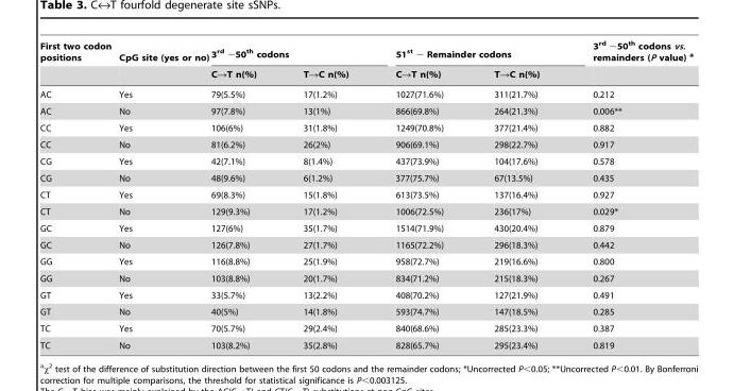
<table><thead><tr><td rowspan="2">First two codon positions</td><td rowspan="2">CpG site (yes or no)</td><td colspan="2">3<sup>rd</sup> ∼50<sup>th</sup> codons</td><td colspan="2">51<sup>st</sup> ∼ Remainder codons</td><td rowspan="2">3<sup>rd</sup> ∼50<sup>th</sup> codons vs. remainders (P value) a</td></tr><tr><td>C→T n(%)</td><td>T→C n(%)</td><td>C→T n(%)</td><td>T→C n(%)</td></tr></thead><tbody><tr><td>AC</td><td>Yes</td><td>79(5.5%)</td><td>17(1.2%)</td><td>1027(71.6%)</td><td>311(21.7%)</td><td>0.212</td></tr><tr><td>AC</td><td>No</td><td>97(7.8%)</td><td>13(1%)</td><td>866(69.8%)</td><td>264(21.3%)</td><td>0.006**</td></tr><tr><td>CC</td><td>Yes</td><td>106(6%)</td><td>31(1.8%)</td><td>1249(70.8%)</td><td>377(21.4%)</td><td>0.882</td></tr><tr><td>CC</td><td>No</td><td>81(6.2%)</td><td>26(2%)</td><td>906(69.1%)</td><td>298(22.7%)</td><td>0.917</td></tr><tr><td>CG</td><td>Yes</td><td>42(7.1%)</td><td>8(1.4%)</td><td>437(73.9%)</td><td>104(17.6%)</td><td>0.578</td></tr><tr><td>CG</td><td>No</td><td>48(9.6%)</td><td>6(1.2%)</td><td>377(75.7%)</td><td>67(13.5%)</td><td>0.435</td></tr><tr><td>CT</td><td>Yes</td><td>69(8.3%)</td><td>15(1.8%)</td><td>613(73.5%)</td><td>137(16.4%)</td><td>0.927</td></tr><tr><td>CT</td><td>No</td><td>129(9.3%)</td><td>17(1.2%)</td><td>1006(72.5%)</td><td>236(17%)</td><td>0.029*</td></tr><tr><td>GC</td><td>Yes</td><td>127(6%)</td><td>35(1.7%)</td><td>1514(71.9%)</td><td>430(20.4%)</td><td>0.879</td></tr><tr><td>GC</td><td>No</td><td>126(7.8%)</td><td>27(1.7%)</td><td>1165(72.2%)</td><td>296(18.3%)</td><td>0.442</td></tr><tr><td>GG</td><td>Yes</td><td>116(8.8%)</td><td>25(1.9%)</td><td>958(72.7%)</td><td>219(16.6%)</td><td>0.800</td></tr><tr><td>GG</td><td>No</td><td>103(8.8%)</td><td>20(1.7%)</td><td>834(71.2%)</td><td>215(18.3%)</td><td>0.267</td></tr><tr><td>GT</td><td>Yes</td><td>33(5.7%)</td><td>13(2.2%)</td><td>408(70.2%)</td><td>127(21.9%)</td><td>0.491</td></tr><tr><td>GT</td><td>No</td><td>40(5%)</td><td>14(1.8%)</td><td>593(74.7%)</td><td>147(18.5%)</td><td>0.285</td></tr><tr><td>TC</td><td>Yes</td><td>70(5.7%)</td><td>29(2.4%)</td><td>840(68.6%)</td><td>285(23.3%)</td><td>0.387</td></tr><tr><td>TC</td><td>No</td><td>103(8.2%)</td><td>35(2.8%)</td><td>828(65.7%)</td><td>295(23.4%)</td><td>0.819</td></tr></tbody></table>